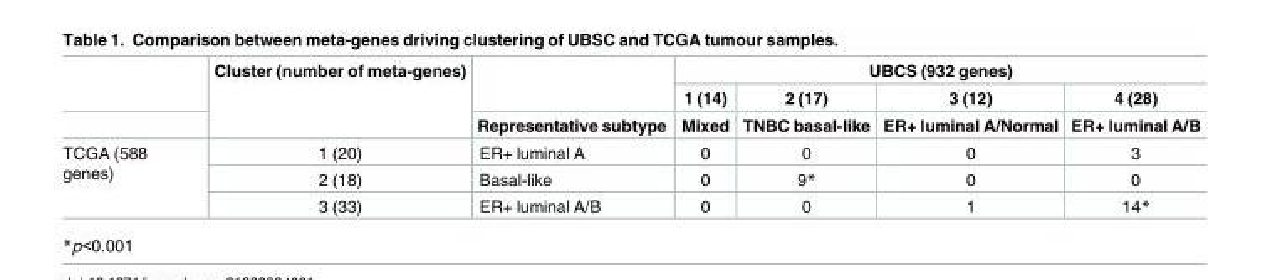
<table><thead><tr><td rowspan="3"></td><td rowspan="3">Cluster (number of meta-genes)</td><td rowspan="3">Representative subtype</td><td colspan="4">UBCS (932 genes)</td></tr><tr><td rowspan="2">1 (14) Mixed</td><td rowspan="2">2 (17) TNBC basal-like</td><td rowspan="2">3 (12) ER+ luminal A/Normal</td><td rowspan="2">4 (28) ER+ luminal A/B</td></tr><tr></tr></thead><tbody><tr><td rowspan="3">TCGA (588 genes)</td><td>1 (20)</td><td>ER+ luminal A</td><td>0</td><td>0</td><td>0</td><td>3</td></tr><tr><td>2 (18)</td><td>Basal-like</td><td>0</td><td>9*</td><td>0</td><td>0</td></tr><tr><td>3 (33)</td><td>ER+ luminal A/B</td><td>0</td><td>0</td><td>1</td><td>14*</td></tr></tbody></table>